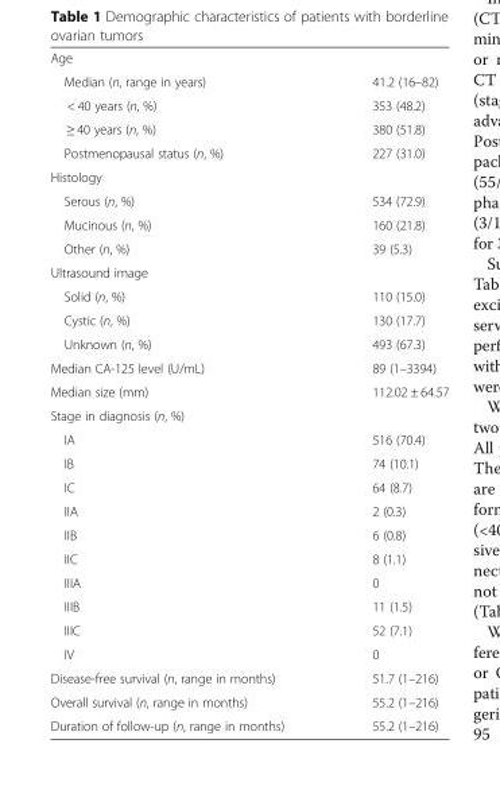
<table><tbody><tr><td colspan="2">Age</td></tr><tr><td>Median (n, range in years)</td><td>41.2 (16–82)</td></tr><tr><td>&lt; 40 years (n, %)</td><td>353 (48.2)</td></tr><tr><td>≥ 40 years (n, %)</td><td>380 (51.8)</td></tr><tr><td>Postmenopausal status (n, %)</td><td>227 (31.0)</td></tr><tr><td colspan="2">Histology</td></tr><tr><td>Serous (n, %)</td><td>534 (72.9)</td></tr><tr><td>Mucinous (n, %)</td><td>160 (21.8)</td></tr><tr><td>Other (n, %)</td><td>39 (5.3)</td></tr><tr><td colspan="2">Ultrasound image</td></tr><tr><td>Solid (n, %)</td><td>110 (15.0)</td></tr><tr><td>Cystic (n, %)</td><td>130 (17.7)</td></tr><tr><td>Unknown (n, %)</td><td>493 (67.3)</td></tr><tr><td>Median CA-125 level (U/mL)</td><td>89 (1–3394)</td></tr><tr><td>Median size (mm)</td><td>112.02 ± 64.57</td></tr><tr><td colspan="2">Stage in diagnosis (n, %)</td></tr><tr><td>IA</td><td>516 (70.4)</td></tr><tr><td>IB</td><td>74 (10.1)</td></tr><tr><td>IC</td><td>64 (8.7)</td></tr><tr><td>IIA</td><td>2 (0.3)</td></tr><tr><td>IIB</td><td>6 (0.8)</td></tr><tr><td>IIC</td><td>8 (1.1)</td></tr><tr><td>IIIA</td><td>0</td></tr><tr><td>IIIB</td><td>11 (1.5)</td></tr><tr><td>IIIC</td><td>52 (7.1)</td></tr><tr><td>IV</td><td>0</td></tr><tr><td>Disease-free survival (n, range in months)</td><td>51.7 (1–216)</td></tr><tr><td>Overall survival (n, range in months)</td><td>55.2 (1–216)</td></tr><tr><td>Duration of follow-up (n, range in months)</td><td>55.2 (1–216)</td></tr></tbody></table>